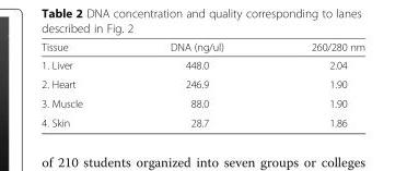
<table><thead><tr><td>Tissue</td><td>DNA (ng/ul)</td><td>260/280 nm</td></tr></thead><tbody><tr><td>1. Liver</td><td>448.0</td><td>2.04</td></tr><tr><td>2. Heart</td><td>246.9</td><td>1.90</td></tr><tr><td>3. Muscle</td><td>88.0</td><td>1.90</td></tr><tr><td>4. Skin</td><td>28.7</td><td>1.86</td></tr></tbody></table>